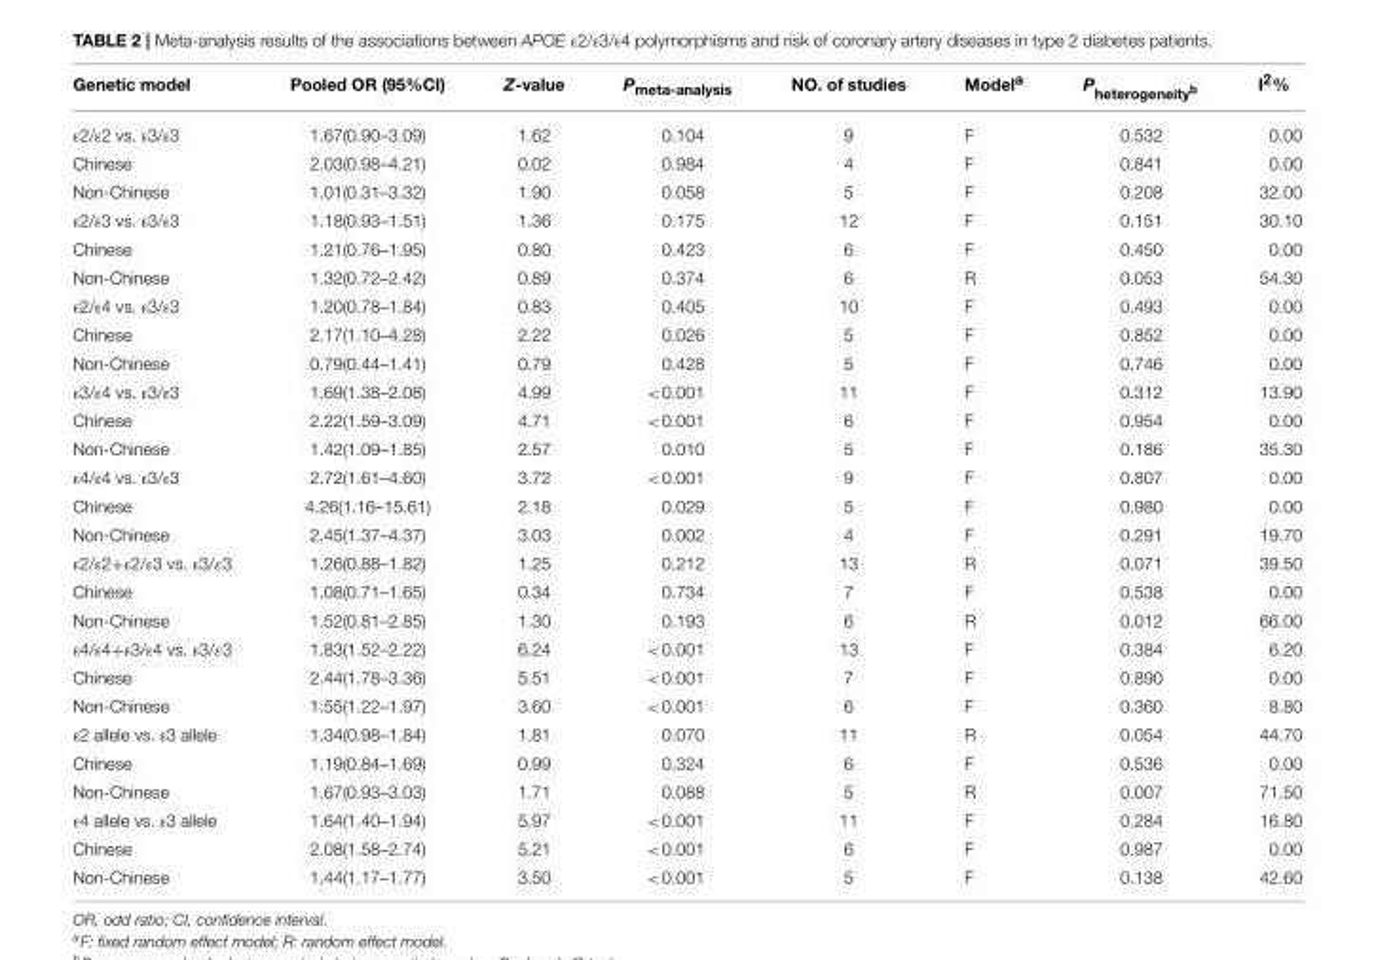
<table><thead><tr><td>Genetic model</td><td>Pooled OR (95%CI)</td><td>Z-value</td><td>P<sub>meta-analysis</sub></td><td>NO. of studies</td><td>Model<sup>a</sup></td><td>P<sub>heterogeneity</sub><sup>b</sup></td><td>I<sup>2</sup>%</td></tr></thead><tbody><tr><td>ε2/ε2 vs. ε3/ε3</td><td>1.67(0.90–3.09)</td><td>1.62</td><td>0.104</td><td>9</td><td>F</td><td>0.532</td><td>0.00</td></tr><tr><td>Chinese</td><td>2.03(0.98–4.21)</td><td>0.02</td><td>0.984</td><td>4</td><td>F</td><td>0.841</td><td>0.00</td></tr><tr><td>Non-Chinese</td><td>1.01(0.31–3.32)</td><td>1.90</td><td>0.058</td><td>5</td><td>F</td><td>0.208</td><td>32.00</td></tr><tr><td>ε2/ε3 vs. ε3/ε3</td><td>1.18(0.93–1.51)</td><td>1.36</td><td>0.175</td><td>12</td><td>F</td><td>0.151</td><td>30.10</td></tr><tr><td>Chinese</td><td>1.21(0.76–1.95)</td><td>0.80</td><td>0.423</td><td>6</td><td>F</td><td>0.450</td><td>0.00</td></tr><tr><td>Non-Chinese</td><td>1.32(0.72–2.42)</td><td>0.89</td><td>0.374</td><td>6</td><td>R</td><td>0.053</td><td>54.30</td></tr><tr><td>ε2/ε4 vs. ε3/ε3</td><td>1.20(0.78–1.84)</td><td>0.83</td><td>0.405</td><td>10</td><td>F</td><td>0.493</td><td>0.00</td></tr><tr><td>Chinese</td><td>2.17(1.10–4.28)</td><td>2.22</td><td>0.026</td><td>5</td><td>F</td><td>0.852</td><td>0.00</td></tr><tr><td>Non-Chinese</td><td>0.79(0.44–1.41)</td><td>0.79</td><td>0.428</td><td>5</td><td>F</td><td>0.746</td><td>0.00</td></tr><tr><td>ε3/ε4 vs. ε3/ε3</td><td>1.69(1.38–2.08)</td><td>4.99</td><td>&lt;0.001</td><td>11</td><td>F</td><td>0.312</td><td>13.90</td></tr><tr><td>Chinese</td><td>2.22(1.59–3.09)</td><td>4.71</td><td>&lt;0.001</td><td>6</td><td>F</td><td>0.954</td><td>0.00</td></tr><tr><td>Non-Chinese</td><td>1.42(1.09–1.85)</td><td>2.57</td><td>0.010</td><td>5</td><td>F</td><td>0.186</td><td>35.30</td></tr><tr><td>ε4/ε4 vs. ε3/ε3</td><td>2.72(1.61–4.60)</td><td>3.72</td><td>&lt;0.001</td><td>9</td><td>F</td><td>0.807</td><td>0.00</td></tr><tr><td>Chinese</td><td>4.26(1.16–15.61)</td><td>2.18</td><td>0.029</td><td>5</td><td>F</td><td>0.980</td><td>0.00</td></tr><tr><td>Non-Chinese</td><td>2.45(1.37–4.37)</td><td>3.03</td><td>0.002</td><td>4</td><td>F</td><td>0.291</td><td>19.70</td></tr><tr><td>ε2/ε2+ε2/ε3 vs. ε3/ε3</td><td>1.26(0.88–1.82)</td><td>1.25</td><td>0.212</td><td>13</td><td>R</td><td>0.071</td><td>39.50</td></tr><tr><td>Chinese</td><td>1.08(0.71–1.65)</td><td>0.34</td><td>0.734</td><td>7</td><td>F</td><td>0.538</td><td>0.00</td></tr><tr><td>Non-Chinese</td><td>1.52(0.81–2.85)</td><td>1.30</td><td>0.193</td><td>6</td><td>R</td><td>0.012</td><td>66.00</td></tr><tr><td>ε4/ε4+ε3/ε4 vs. ε3/ε3</td><td>1.83(1.52–2.22)</td><td>6.24</td><td>&lt;0.001</td><td>13</td><td>F</td><td>0.384</td><td>6.20</td></tr><tr><td>Chinese</td><td>2.44(1.78–3.36)</td><td>5.51</td><td>&lt;0.001</td><td>7</td><td>F</td><td>0.890</td><td>0.00</td></tr><tr><td>Non-Chinese</td><td>1.55(1.22–1.97)</td><td>3.60</td><td>&lt;0.001</td><td>6</td><td>F</td><td>0.360</td><td>8.80</td></tr><tr><td>ε2 allele vs. ε3 allele</td><td>1.34(0.98–1.84)</td><td>1.81</td><td>0.070</td><td>11</td><td>R</td><td>0.054</td><td>44.70</td></tr><tr><td>Chinese</td><td>1.19(0.84–1.69)</td><td>0.99</td><td>0.324</td><td>6</td><td>F</td><td>0.536</td><td>0.00</td></tr><tr><td>Non-Chinese</td><td>1.67(0.93–3.03)</td><td>1.71</td><td>0.088</td><td>5</td><td>R</td><td>0.007</td><td>71.50</td></tr><tr><td>ε4 allele vs. ε3 allele</td><td>1.64(1.40–1.94)</td><td>5.97</td><td>&lt;0.001</td><td>11</td><td>F</td><td>0.284</td><td>16.80</td></tr><tr><td>Chinese</td><td>2.08(1.58–2.74)</td><td>5.21</td><td>&lt;0.001</td><td>6</td><td>F</td><td>0.987</td><td>0.00</td></tr><tr><td>Non-Chinese</td><td>1.44(1.17–1.77)</td><td>3.50</td><td>&lt;0.001</td><td>5</td><td>F</td><td>0.138</td><td>42.60</td></tr></tbody></table>